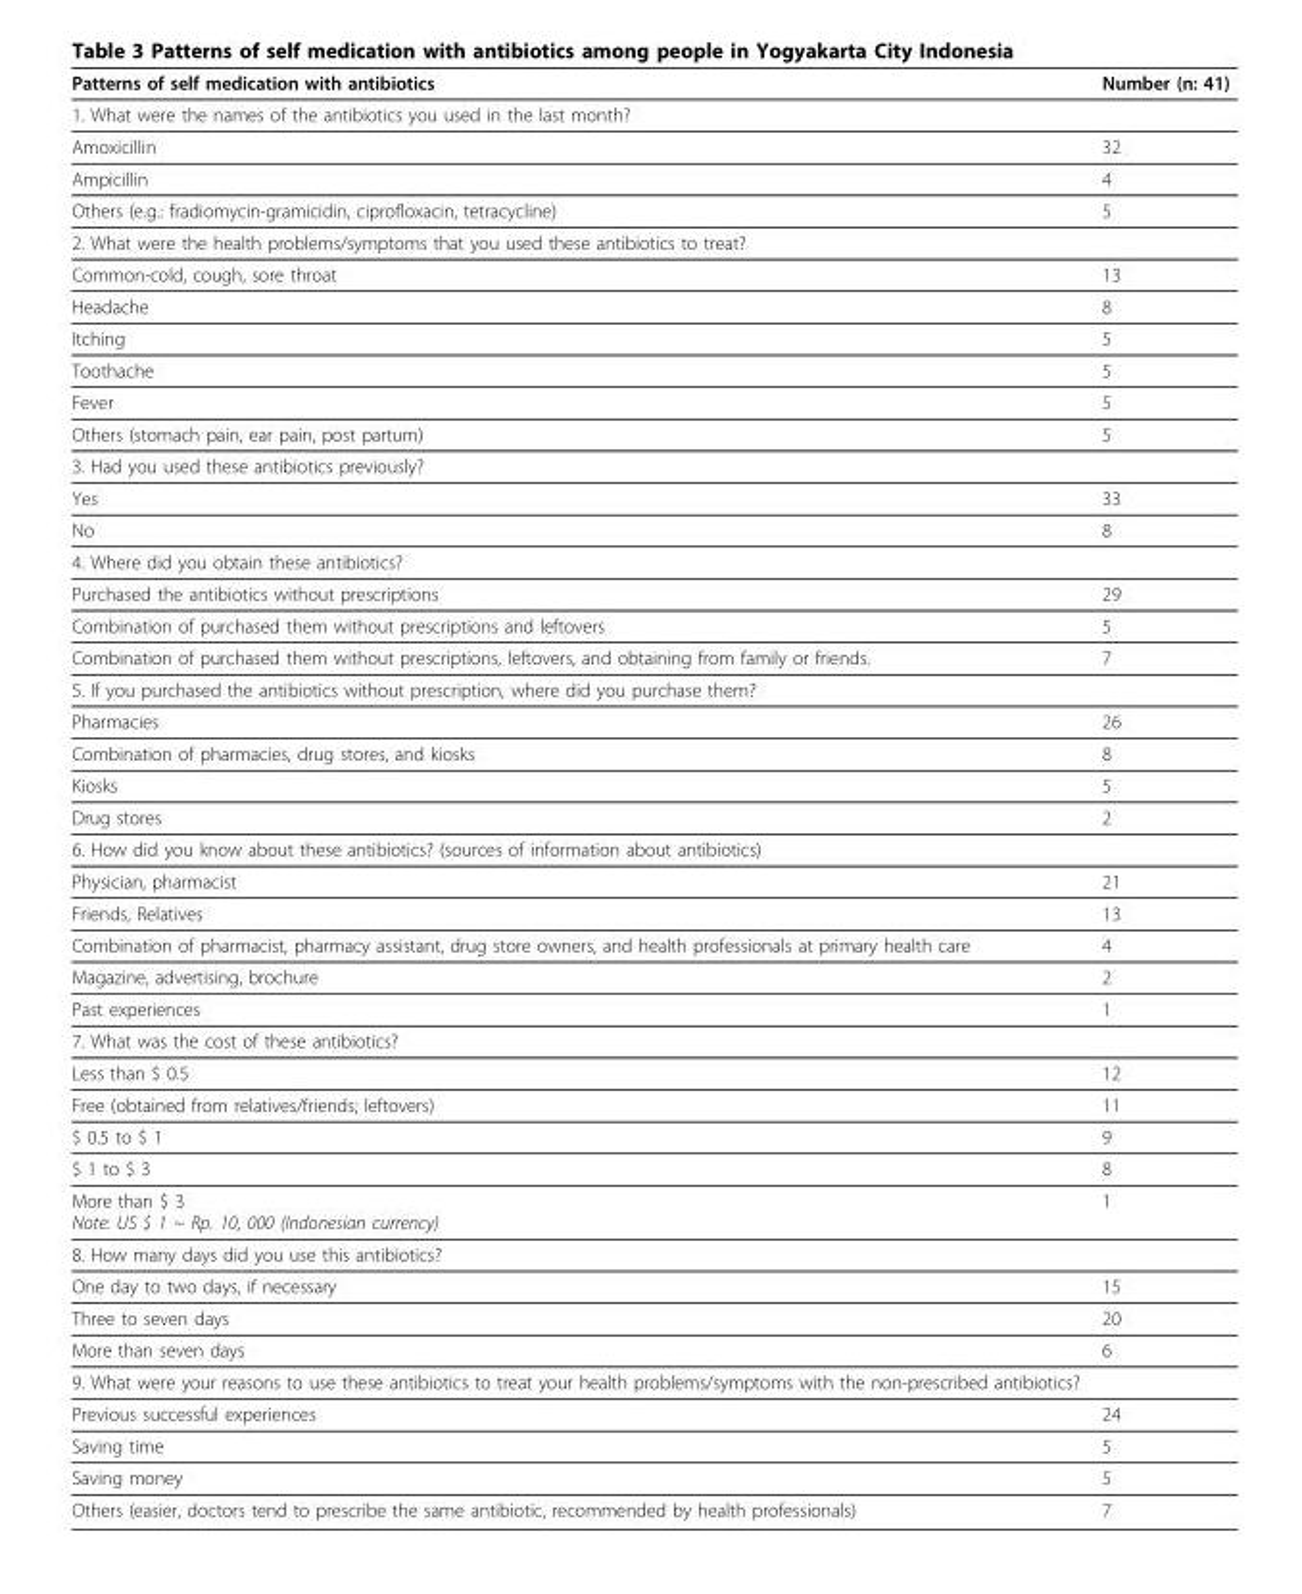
<table><thead><tr><td>Patterns of self medication with antibiotics</td><td>Number (n: 41)</td></tr></thead><tbody><tr><td colspan="2">1. What were the names of the antibiotics you used in the last month?</td></tr><tr><td>Amoxicillin</td><td>32</td></tr><tr><td>Ampicillin</td><td>4</td></tr><tr><td>Others (e.g.: fradiomycin-gramicidin, ciprofloxacin, tetracycline)</td><td>5</td></tr><tr><td colspan="2">2. What were the health problems/symptoms that you used these antibiotics to treat?</td></tr><tr><td>Common-cold, cough, sore throat</td><td>13</td></tr><tr><td>Headache</td><td>8</td></tr><tr><td>Itching</td><td>5</td></tr><tr><td>Toothache</td><td>5</td></tr><tr><td>Fever</td><td>5</td></tr><tr><td>Others (stomach pain, ear pain, post partum)</td><td>5</td></tr><tr><td colspan="2">3. Had you used these antibiotics previously?</td></tr><tr><td>Yes</td><td>33</td></tr><tr><td>No</td><td>8</td></tr><tr><td colspan="2">4. Where did you obtain these antibiotics?</td></tr><tr><td>Purchased the antibiotics without prescriptions</td><td>29</td></tr><tr><td>Combination of purchased them without prescriptions and leftovers</td><td>5</td></tr><tr><td>Combination of purchased them without prescriptions, leftovers, and obtaining from family or friends.</td><td>7</td></tr><tr><td colspan="2">5. If you purchased the antibiotics without prescription, where did you purchase them?</td></tr><tr><td>Pharmacies</td><td>26</td></tr><tr><td>Combination of pharmacies, drug stores, and kiosks</td><td>8</td></tr><tr><td>Kiosks</td><td>5</td></tr><tr><td>Drug stores</td><td>2</td></tr><tr><td colspan="2">6. How did you know about these antibiotics? (sources of information about antibiotics)</td></tr><tr><td>Physician, pharmacist</td><td>21</td></tr><tr><td>Friends, Relatives</td><td>13</td></tr><tr><td>Combination of pharmacist, pharmacy assistant, drug store owners, and health professionals at primary health care</td><td>4</td></tr><tr><td>Magazine, advertising, brochure</td><td>2</td></tr><tr><td>Past experiences</td><td>1</td></tr><tr><td colspan="2">7. What was the cost of these antibiotics?</td></tr><tr><td>Less than $ 0.5</td><td>12</td></tr><tr><td>Free (obtained from relatives/friends; leftovers)</td><td>11</td></tr><tr><td>$ 0.5 to $ 1</td><td>9</td></tr><tr><td>$ 1 to $ 3</td><td>8</td></tr><tr><td>More than $ 3 Note: US $ 1 ~ Rp. 10, 000 (Indonesian currency)</td><td>1</td></tr><tr><td colspan="2">8. How many days did you use this antibiotics?</td></tr><tr><td>One day to two days, if necessary</td><td>15</td></tr><tr><td>Three to seven days</td><td>20</td></tr><tr><td>More than seven days</td><td>6</td></tr><tr><td colspan="2">9. What were your reasons to use these antibiotics to treat your health problems/symptoms with the non-prescribed antibiotics?</td></tr><tr><td>Previous successful experiences</td><td>24</td></tr><tr><td>Saving time</td><td>5</td></tr><tr><td>Saving money</td><td>5</td></tr><tr><td>Others (easier, doctors tend to prescribe the same antibiotic, recommended by health professionals)</td><td>7</td></tr></tbody></table>